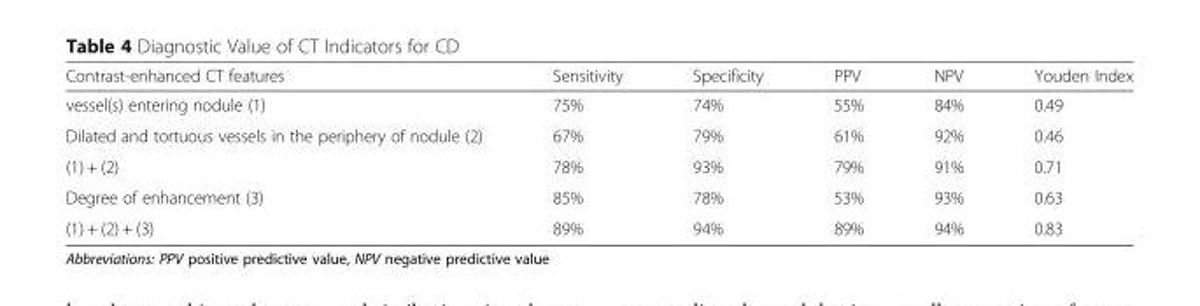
<table><thead><tr><td>Contrast-enhanced CT features</td><td>Sensitivity</td><td>Specificity</td><td>PPV</td><td>NPV</td><td>Youden Index</td></tr></thead><tbody><tr><td>vessel(s) entering nodule (1)</td><td>75%</td><td>74%</td><td>55%</td><td>84%</td><td>0.49</td></tr><tr><td>Dilated and tortuous vessels in the periphery of nodule (2)</td><td>67%</td><td>79%</td><td>61%</td><td>92%</td><td>0.46</td></tr><tr><td>(1) + (2)</td><td>78%</td><td>93%</td><td>79%</td><td>91%</td><td>0.71</td></tr><tr><td>Degree of enhancement (3)</td><td>85%</td><td>78%</td><td>53%</td><td>93%</td><td>0.63</td></tr><tr><td>(1) + (2) + (3)</td><td>89%</td><td>94%</td><td>89%</td><td>94%</td><td>0.83</td></tr></tbody></table>